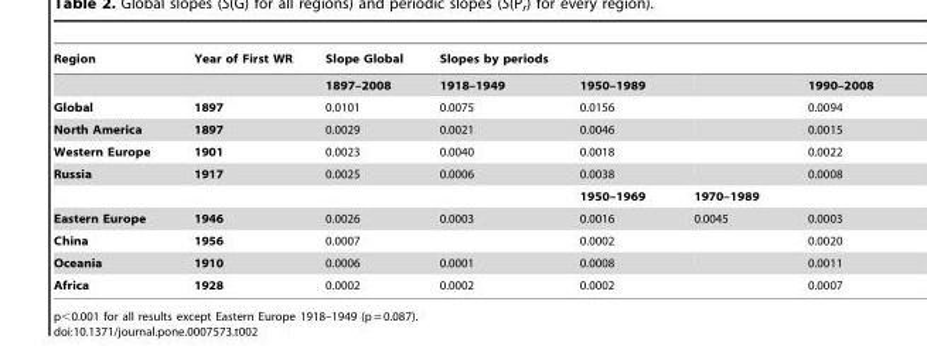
<table><thead><tr><td>Region</td><td>Year of First WR</td><td>Slope Global</td><td>Slopes by periods</td><td></td><td></td><td></td></tr></thead><tbody><tr><td></td><td></td><td>1897–2008</td><td>1918–1949</td><td>1950–1989</td><td></td><td>1990–2008</td></tr><tr><td>Global</td><td>1897</td><td>0.0101</td><td>0.0075</td><td>0.0156</td><td></td><td>0.0094</td></tr><tr><td>North America</td><td>1897</td><td>0.0029</td><td>0.0021</td><td>0.0046</td><td></td><td>0.0015</td></tr><tr><td>Western Europe</td><td>1901</td><td>0.0023</td><td>0.0040</td><td>0.0018</td><td></td><td>0.0022</td></tr><tr><td rowspan="2">Russia</td><td>1917</td><td>0.0025</td><td>0.0006</td><td>0.0038</td><td></td><td>0.0008</td></tr><tr><td></td><td></td><td></td><td>1950–1969</td><td>1970–1989</td><td></td></tr><tr><td>Eastern Europe</td><td>1946</td><td>0.0026</td><td>0.0003</td><td>0.0016</td><td>0.0045</td><td>0.0003</td></tr><tr><td>China</td><td>1956</td><td>0.0007</td><td></td><td>0.0002</td><td></td><td>0.0020</td></tr><tr><td>Oceania</td><td>1910</td><td>0.0006</td><td>0.0001</td><td>0.0008</td><td></td><td>0.0011</td></tr><tr><td>Africa</td><td>1928</td><td>0.0002</td><td>0.0002</td><td>0.0002</td><td></td><td>0.0007</td></tr></tbody></table>